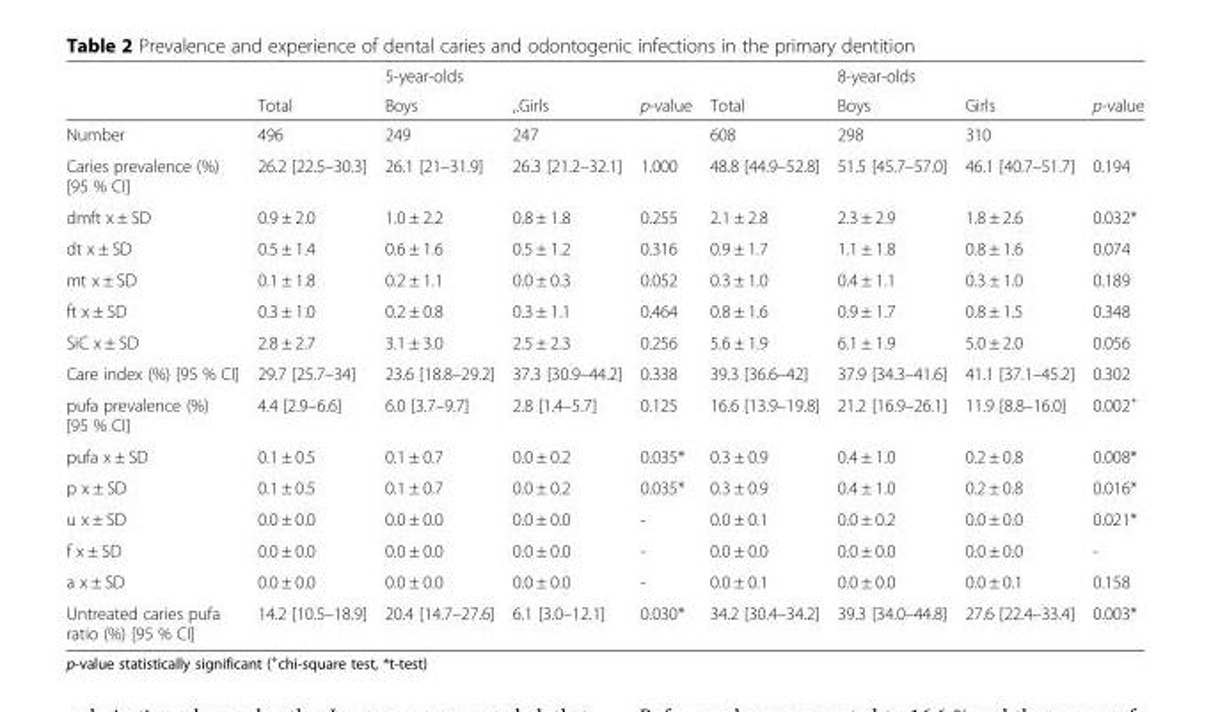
<table><thead><tr><td rowspan="2"></td><td rowspan="2">Total</td><td rowspan="2">5-year-olds Boys</td><td rowspan="2">,.Girls</td><td rowspan="2">p-value</td><td rowspan="2">Total</td><td rowspan="2">8-year-olds Boys</td><td rowspan="2">Girls</td><td rowspan="2">p-value</td></tr><tr></tr></thead><tbody><tr><td>Number</td><td>496</td><td>249</td><td>247</td><td></td><td>608</td><td>298</td><td>310</td><td></td></tr><tr><td>Caries prevalence (%) [95 % CI]</td><td>26.2 [22.5–30.3]</td><td>26.1 [21–31.9]</td><td>26.3 [21.2–32.1]</td><td>1.000</td><td>48.8 [44.9–52.8]</td><td>51.5 [45.7–57.0]</td><td>46.1 [40.7–51.7]</td><td>0.194</td></tr><tr><td>dmft x ± SD</td><td>0.9 ± 2.0</td><td>1.0 ± 2.2</td><td>0.8 ± 1.8</td><td>0.255</td><td>2.1 ± 2.8</td><td>2.3 ± 2.9</td><td>1.8 ± 2.6</td><td>0.032*</td></tr><tr><td>dt x ± SD</td><td>0.5 ± 1.4</td><td>0.6 ± 1.6</td><td>0.5 ± 1.2</td><td>0.316</td><td>0.9 ± 1.7</td><td>1.1 ± 1.8</td><td>0.8 ± 1.6</td><td>0.074</td></tr><tr><td>mt x ± SD</td><td>0.1 ± 1.8</td><td>0.2 ± 1.1</td><td>0.0 ± 0.3</td><td>0.052</td><td>0.3 ± 1.0</td><td>0.4 ± 1.1</td><td>0.3 ± 1.0</td><td>0.189</td></tr><tr><td>ft x ± SD</td><td>0.3 ± 1.0</td><td>0.2 ± 0.8</td><td>0.3 ± 1.1</td><td>0.464</td><td>0.8 ± 1.6</td><td>0.9 ± 1.7</td><td>0.8 ± 1.5</td><td>0.348</td></tr><tr><td>SiC x ± SD</td><td>2.8 ± 2.7</td><td>3.1 ± 3.0</td><td>2.5 ± 2.3</td><td>0.256</td><td>5.6 ± 1.9</td><td>6.1 ± 1.9</td><td>5.0 ± 2.0</td><td>0.056</td></tr><tr><td>Care index (%) [95 % CI]</td><td>29.7 [25.7–34]</td><td>23.6 [18.8–29.2]</td><td>37.3 [30.9–44.2]</td><td>0.338</td><td>39.3 [36.6–42]</td><td>37.9 [34.3–41.6]</td><td>41.1 [37.1–45.2]</td><td>0.302</td></tr><tr><td>pufa prevalence (%) [95 % CI]</td><td>4.4 [2.9–6.6]</td><td>6.0 [3.7–9.7]</td><td>2.8 [1.4–5.7]</td><td>0.125</td><td>16.6 [13.9–19.8]</td><td>21.2 [16.9–26.1]</td><td>11.9 [8.8–16.0]</td><td>0.002<sup>+</sup></td></tr><tr><td>pufa x ± SD</td><td>0.1 ± 0.5</td><td>0.1 ± 0.7</td><td>0.0 ± 0.2</td><td>0.035*</td><td>0.3 ± 0.9</td><td>0.4 ± 1.0</td><td>0.2 ± 0.8</td><td>0.008*</td></tr><tr><td>p x ± SD</td><td>0.1 ± 0.5</td><td>0.1 ± 0.7</td><td>0.0 ± 0.2</td><td>0.035*</td><td>0.3 ± 0.9</td><td>0.4 ± 1.0</td><td>0.2 ± 0.8</td><td>0.016*</td></tr><tr><td>u x ± SD</td><td>0.0 ± 0.0</td><td>0.0 ± 0.0</td><td>0.0 ± 0.0</td><td>-</td><td>0.0 ± 0.1</td><td>0.0 ± 0.2</td><td>0.0 ± 0.0</td><td>0.021*</td></tr><tr><td>f x ± SD</td><td>0.0 ± 0.0</td><td>0.0 ± 0.0</td><td>0.0 ± 0.0</td><td>-</td><td>0.0 ± 0.0</td><td>0.0 ± 0.0</td><td>0.0 ± 0.0</td><td>-</td></tr><tr><td>a x ± SD</td><td>0.0 ± 0.0</td><td>0.0 ± 0.0</td><td>0.0 ± 0.0</td><td>-</td><td>0.0 ± 0.1</td><td>0.0 ± 0.0</td><td>0.0 ± 0.1</td><td>0.158</td></tr><tr><td>Untreated caries pufa ratio (%) [95 % CI]</td><td>14.2 [10.5–18.9]</td><td>20.4 [14.7–27.6]</td><td>6.1 [3.0–12.1]</td><td>0.030*</td><td>34.2 [30.4–34.2]</td><td>39.3 [34.0–44.8]</td><td>27.6 [22.4–33.4]</td><td>0.003*</td></tr></tbody></table>